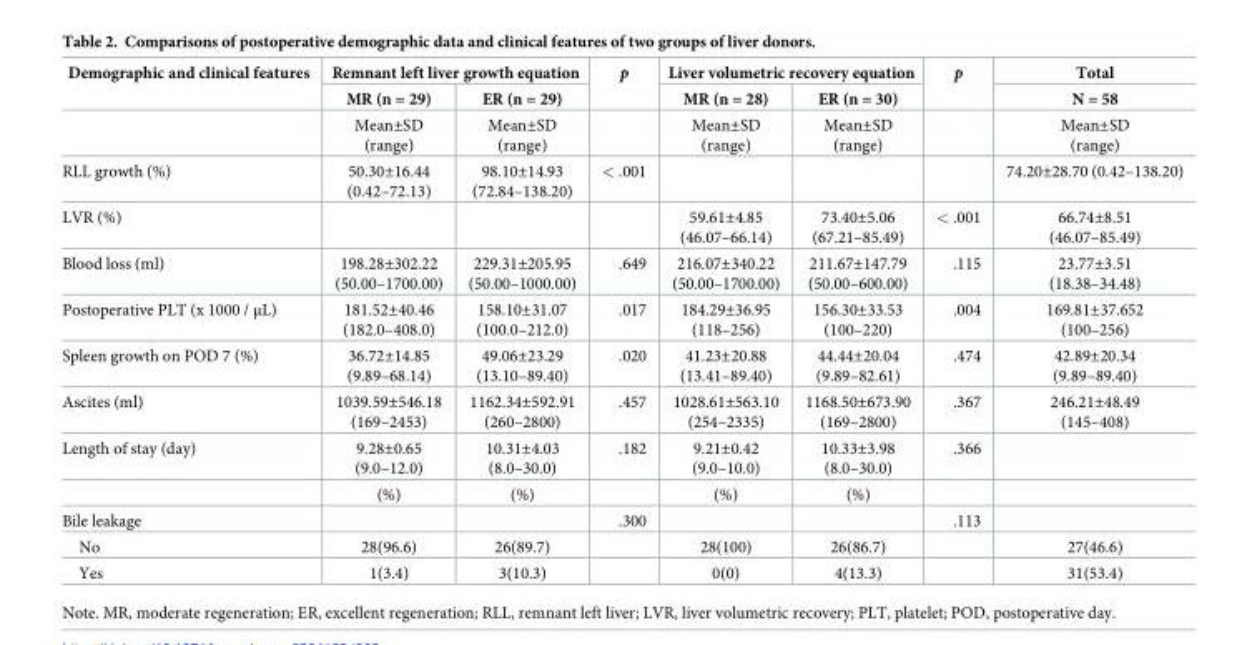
<table><thead><tr><td rowspan="2">Demographic and clinical features</td><td colspan="2">Remnant left liver growth equation</td><td rowspan="2">p</td><td colspan="2">Liver volumetric recovery equation</td><td rowspan="2">p</td><td rowspan="2">Total N = 58</td></tr><tr><td>MR (n = 29)</td><td>ER (n = 29)</td><td>MR (n = 28)</td><td>ER (n = 30)</td></tr></thead><tbody><tr><td></td><td>Mean±SD (range)</td><td>Mean±SD (range)</td><td></td><td>Mean±SD (range)</td><td>Mean±SD (range)</td><td></td><td>Mean±SD (range)</td></tr><tr><td>RLL growth (%)</td><td>50.30±16.44 (0.42–72.13)</td><td>98.10±14.93 (72.84–138.20)</td><td>&lt; .001</td><td></td><td></td><td></td><td>74.20±28.70 (0.42–138.20)</td></tr><tr><td>LVR (%)</td><td></td><td></td><td></td><td>59.61±4.85 (46.07–66.14)</td><td>73.40±5.06 (67.21–85.49)</td><td>&lt; .001</td><td>66.74±8.51 (46.07–85.49)</td></tr><tr><td>Blood loss (ml)</td><td>198.28±302.22 (50.00–1700.00)</td><td>229.31±205.95 (50.00–1000.00)</td><td>.649</td><td>216.07±340.22 (50.00–1700.00)</td><td>211.67±147.79 (50.00–600.00)</td><td>.115</td><td>23.77±3.51 (18.38–34.48)</td></tr><tr><td>Postoperative PLT (x 1000 / μL)</td><td>181.52±40.46 (182.0–408.0)</td><td>158.10±31.07 (100.0–212.0)</td><td>.017</td><td>184.29±36.95 (118–256)</td><td>156.30±33.53 (100–220)</td><td>.004</td><td>169.81±37.652 (100–256)</td></tr><tr><td>Spleen growth on POD 7 (%)</td><td>36.72±14.85 (9.89–68.14)</td><td>49.06±23.29 (13.10–89.40)</td><td>.020</td><td>41.23±20.88 (13.41–89.40)</td><td>44.44±20.04 (9.89–82.61)</td><td>.474</td><td>42.89±20.34 (9.89–89.40)</td></tr><tr><td>Ascites (ml)</td><td>1039.59±546.18 (169–2453)</td><td>1162.34±592.91 (260–2800)</td><td>.457</td><td>1028.61±563.10 (254–2335)</td><td>1168.50±673.90 (169–2800)</td><td>.367</td><td>246.21±48.49 (145–408)</td></tr><tr><td rowspan="2">Length of stay (day)</td><td>9.28±0.65 (9.0–12.0)</td><td>10.31±4.03 (8.0–30.0)</td><td>.182</td><td>9.21±0.42 (9.0–10.0)</td><td>10.33±3.98 (8.0–30.0)</td><td>.366</td><td></td></tr><tr><td>(%)</td><td>(%)</td><td></td><td>(%)</td><td>(%)</td><td></td><td></td></tr><tr><td>Bile leakage</td><td></td><td></td><td>.300</td><td></td><td></td><td>.113</td><td></td></tr><tr><td>No</td><td>28(96.6)</td><td>26(89.7)</td><td></td><td>28(100)</td><td>26(86.7)</td><td></td><td>27(46.6)</td></tr><tr><td>Yes</td><td>1(3.4)</td><td>3(10.3)</td><td></td><td>0(0)</td><td>4(13.3)</td><td></td><td>31(53.4)</td></tr></tbody></table>